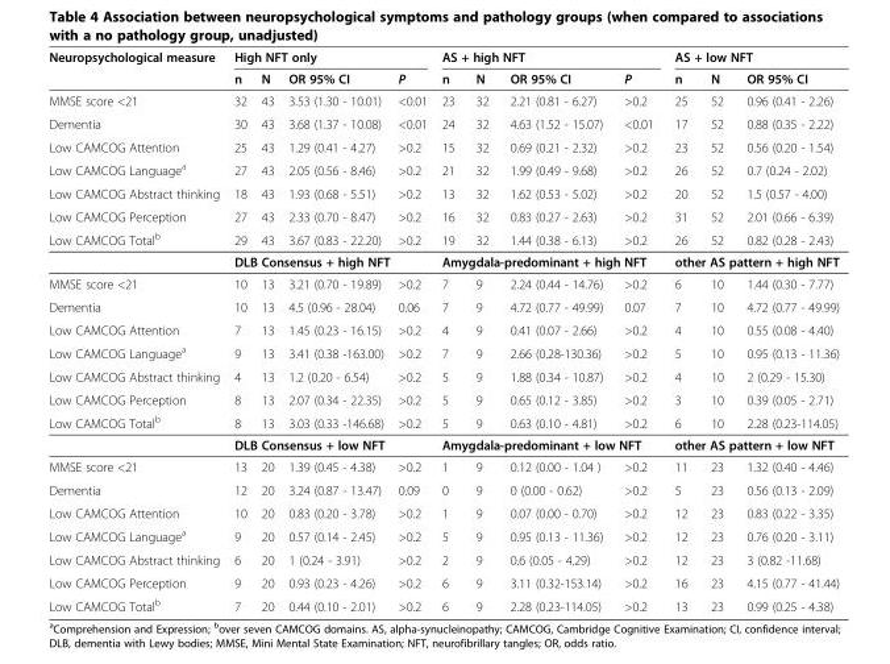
<table><thead><tr><td rowspan="2">Neuropsychological measure</td><td colspan="4">High NFT only</td><td colspan="4">AS + high NFT</td><td colspan="3">AS + low NFT</td></tr><tr><td>n</td><td>N</td><td>OR 95% CI</td><td>P</td><td>n</td><td>N</td><td>OR 95% CI</td><td>P</td><td>n</td><td>N</td><td>OR 95% CI</td></tr></thead><tbody><tr><td>MMSE score &lt;21</td><td>32</td><td>43</td><td>3.53 (1.30 - 10.01)</td><td>&lt;0.01</td><td>23</td><td>32</td><td>2.21 (0.81 - 6.27)</td><td>&gt;0.2</td><td>25</td><td>52</td><td>0.96 (0.41 - 2.26)</td></tr><tr><td>Dementia</td><td>30</td><td>43</td><td>3.68 (1.37 - 10.08)</td><td>&lt;0.01</td><td>24</td><td>32</td><td>4.63 (1.52 - 15.07)</td><td>&lt;0.01</td><td>17</td><td>52</td><td>0.88 (0.35 - 2.22)</td></tr><tr><td>Low CAMCOG Attention</td><td>25</td><td>43</td><td>1.29 (0.41 - 4.27)</td><td>&gt;0.2</td><td>15</td><td>32</td><td>0.69 (0.21 - 2.32)</td><td>&gt;0.2</td><td>23</td><td>52</td><td>0.56 (0.20 - 1.54)</td></tr><tr><td>Low CAMCOG Language<sup>a</sup></td><td>27</td><td>43</td><td>2.05 (0.56 - 8.46)</td><td>&gt;0.2</td><td>21</td><td>32</td><td>1.99 (0.49 - 9.68)</td><td>&gt;0.2</td><td>26</td><td>52</td><td>0.7 (0.24 - 2.02)</td></tr><tr><td>Low CAMCOG Abstract thinking</td><td>18</td><td>43</td><td>1.93 (0.68 - 5.51)</td><td>&gt;0.2</td><td>13</td><td>32</td><td>1.62 (0.53 - 5.02)</td><td>&gt;0.2</td><td>20</td><td>52</td><td>1.5 (0.57 - 4.00)</td></tr><tr><td>Low CAMCOG Perception</td><td>27</td><td>43</td><td>2.33 (0.70 - 8.47)</td><td>&gt;0.2</td><td>16</td><td>32</td><td>0.83 (0.27 - 2.63)</td><td>&gt;0.2</td><td>31</td><td>52</td><td>2.01 (0.66 - 6.39)</td></tr><tr><td rowspan="2">Low CAMCOG Total<sup>b</sup></td><td>29</td><td>43</td><td>3.67 (0.83 - 22.20)</td><td>&gt;0.2</td><td>19</td><td>32</td><td>1.44 (0.38 - 6.13)</td><td>&gt;0.2</td><td>26</td><td>52</td><td>0.82 (0.28 - 2.43)</td></tr><tr><td colspan="4">DLB Consensus + high NFT</td><td colspan="4">Amygdala-predominant + high NFT</td><td colspan="3">other AS pattern + high NFT</td></tr><tr><td>MMSE score &lt;21</td><td>10</td><td>13</td><td>3.21 (0.70 - 19.89)</td><td>&gt;0.2</td><td>7</td><td>9</td><td>2.24 (0.44 - 14.76)</td><td>&gt;0.2</td><td>6</td><td>10</td><td>1.44 (0.30 - 7.77)</td></tr><tr><td>Dementia</td><td>10</td><td>13</td><td>4.5 (0.96 - 28.04)</td><td>0.06</td><td>7</td><td>9</td><td>4.72 (0.77 - 49.99)</td><td>0.07</td><td>7</td><td>10</td><td>4.72 (0.77 - 49.99)</td></tr><tr><td>Low CAMCOG Attention</td><td>7</td><td>13</td><td>1.45 (0.23 - 16.15)</td><td>&gt;0.2</td><td>4</td><td>9</td><td>0.41 (0.07 - 2.66)</td><td>&gt;0.2</td><td>4</td><td>10</td><td>0.55 (0.08 - 4.40)</td></tr><tr><td>Low CAMCOG Language<sup>a</sup></td><td>9</td><td>13</td><td>3.41 (0.38 -163.00)</td><td>&gt;0.2</td><td>7</td><td>9</td><td>2.66 (0.28-130.36)</td><td>&gt;0.2</td><td>5</td><td>10</td><td>0.95 (0.13 - 11.36)</td></tr><tr><td>Low CAMCOG Abstract thinking</td><td>4</td><td>13</td><td>1.2 (0.20 - 6.54)</td><td>&gt;0.2</td><td>5</td><td>9</td><td>1.88 (0.34 - 10.87)</td><td>&gt;0.2</td><td>4</td><td>10</td><td>2 (0.29 - 15.30)</td></tr><tr><td>Low CAMCOG Perception</td><td>8</td><td>13</td><td>2.07 (0.34 - 22.35)</td><td>&gt;0.2</td><td>5</td><td>9</td><td>0.65 (0.12 - 3.85)</td><td>&gt;0.2</td><td>3</td><td>10</td><td>0.39 (0.05 - 2.71)</td></tr><tr><td rowspan="2">Low CAMCOG Total<sup>b</sup></td><td>8</td><td>13</td><td>3.03 (0.33 -146.68)</td><td>&gt;0.2</td><td>5</td><td>9</td><td>0.63 (0.10 - 4.81)</td><td>&gt;0.2</td><td>6</td><td>10</td><td>2.28 (0.23-114.05)</td></tr><tr><td colspan="4">DLB Consensus + low NFT</td><td colspan="4">Amygdala-predominant + low NFT</td><td colspan="3">other AS pattern + low NFT</td></tr><tr><td>MMSE score &lt;21</td><td>13</td><td>20</td><td>1.39 (0.45 - 4.38)</td><td>&gt;0.2</td><td>1</td><td>9</td><td>0.12 (0.00 - 1.04 )</td><td>&gt;0.2</td><td>11</td><td>23</td><td>1.32 (0.40 - 4.46)</td></tr><tr><td>Dementia</td><td>12</td><td>20</td><td>3.24 (0.87 - 13.47)</td><td>0.09</td><td>0</td><td>9</td><td>0 (0.00 - 0.62)</td><td>&gt;0.2</td><td>5</td><td>23</td><td>0.56 (0.13 - 2.09)</td></tr><tr><td>Low CAMCOG Attention</td><td>10</td><td>20</td><td>0.83 (0.20 - 3.78)</td><td>&gt;0.2</td><td>1</td><td>9</td><td>0.07 (0.00 - 0.70)</td><td>&gt;0.2</td><td>12</td><td>23</td><td>0.83 (0.22 - 3.35)</td></tr><tr><td>Low CAMCOG Language<sup>a</sup></td><td>9</td><td>20</td><td>0.57 (0.14 - 2.45)</td><td>&gt;0.2</td><td>5</td><td>9</td><td>0.95 (0.13 - 11.36)</td><td>&gt;0.2</td><td>12</td><td>23</td><td>0.76 (0.20 - 3.11)</td></tr><tr><td>Low CAMCOG Abstract thinking</td><td>6</td><td>20</td><td>1 (0.24 - 3.91)</td><td>&gt;0.2</td><td>2</td><td>9</td><td>0.6 (0.05 - 4.29)</td><td>&gt;0.2</td><td>12</td><td>23</td><td>3 (0.82 -11.68)</td></tr><tr><td>Low CAMCOG Perception</td><td>9</td><td>20</td><td>0.93 (0.23 - 4.26)</td><td>&gt;0.2</td><td>6</td><td>9</td><td>3.11 (0.32-153.14)</td><td>&gt;0.2</td><td>16</td><td>23</td><td>4.15 (0.77 - 41.44)</td></tr><tr><td>Low CAMCOG Total<sup>b</sup></td><td>7</td><td>20</td><td>0.44 (0.10 - 2.01)</td><td>&gt;0.2</td><td>6</td><td>9</td><td>2.28 (0.23-114.05)</td><td>&gt;0.2</td><td>13</td><td>23</td><td>0.99 (0.25 - 4.38)</td></tr></tbody></table>